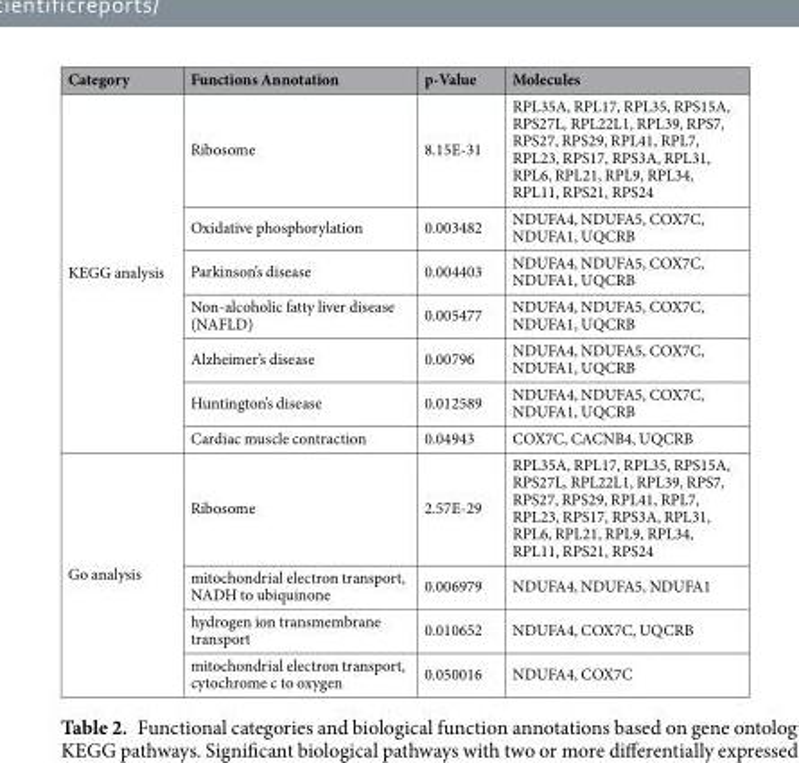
<table><thead><tr><td>Category</td><td>Functions Annotation</td><td>p-Value</td><td>Molecules</td></tr></thead><tbody><tr><td rowspan="7">KEGG analysis</td><td>Ribosome</td><td>8.15E-31</td><td>RPL35A, RPL17, RPL35, RPS15A, RPS27L, RPL22L1, RPL39, RPS7, RPS27, RPS29, RPL41, RPL7, RPL23, RPS17, RPS3A, RPL31, RPL6, RPL21, RPL9, RPL34, RPL11, RPS21, RPS24</td></tr><tr><td>Oxidative phosphorylation</td><td>0.003482</td><td>NDUFA4, NDUFA5, COX7C, NDUFA1, UQCRB</td></tr><tr><td>Parkinson’s disease</td><td>0.004403</td><td>NDUFA4, NDUFA5, COX7C, NDUFA1, UQCRB</td></tr><tr><td>Non-alcoholic fatty liver disease (NAFLD)</td><td>0.005477</td><td>NDUFA4, NDUFA5, COX7C, NDUFA1, UQCRB</td></tr><tr><td>Alzheimer’s disease</td><td>0.00796</td><td>NDUFA4, NDUFA5, COX7C, NDUFA1, UQCRB</td></tr><tr><td>Huntington’s disease</td><td>0.012589</td><td>NDUFA4, NDUFA5, COX7C, NDUFA1, UQCRB</td></tr><tr><td>Cardiac muscle contraction</td><td>0.04943</td><td>COX7C, CACNB4, UQCRB</td></tr><tr><td rowspan="4">Go analysis</td><td>Ribosome</td><td>2.57E-29</td><td>RPL35A, RPL17, RPL35, RPS15A, RPS27L, RPL22L1, RPL39, RPS7, RPS27, RPS29, RPL41, RPL7, RPL23, RPS17, RPS3A, RPL31, RPL6, RPL21, RPL9, RPL34, RPL11, RPS21, RPS24</td></tr><tr><td>mitochondrial electron transport, NADH to ubiquinone</td><td>0.006979</td><td>NDUFA4, NDUFA5, NDUFA1</td></tr><tr><td>hydrogen ion transmembrane transport</td><td>0.010652</td><td>NDUFA4, COX7C, UQCRB</td></tr><tr><td>mitochondrial electron transport, cytochrome c to oxygen</td><td>0.050016</td><td>NDUFA4, COX7C</td></tr></tbody></table>